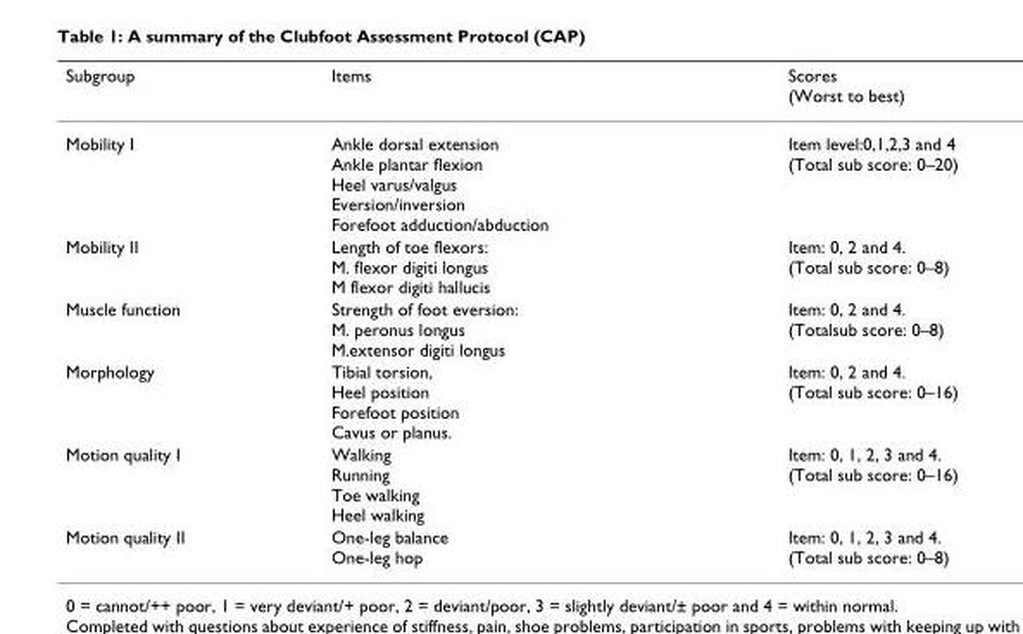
<table><thead><tr><td>Subgroup</td><td>Items</td><td>Scores (Worst to best)</td></tr></thead><tbody><tr><td>Mobility I</td><td>Ankle dorsal extension Ankle plantar flexion Heel varus/valgus Eversion/inversion Forefoot adduction/abduction</td><td>Item level:0,1,2,3 and 4 (Total sub score: 0–20)</td></tr><tr><td>Mobility II</td><td>Length of toe flexors: M. flexor digiti longus M flexor digiti hallucis</td><td>Item: 0, 2 and 4. (Total sub score: 0–8)</td></tr><tr><td>Muscle function</td><td>Strength of foot eversion: M. peronus longus M.extensor digiti longus</td><td>Item: 0, 2 and 4. (Totalsub score: 0–8)</td></tr><tr><td>Morphology</td><td>Tibial torsion, Heel position Forefoot position Cavus or planus.</td><td>Item: 0, 2 and 4. (Total sub score: 0–16)</td></tr><tr><td>Motion quality I</td><td>Walking Running Toe walking Heel walking</td><td>Item: 0, 1, 2, 3 and 4. (Total sub score: 0–16)</td></tr><tr><td>Motion quality II</td><td>One-leg balance One-leg hop</td><td>Item: 0, 1, 2, 3 and 4. (Total sub score: 0–8)</td></tr></tbody></table>